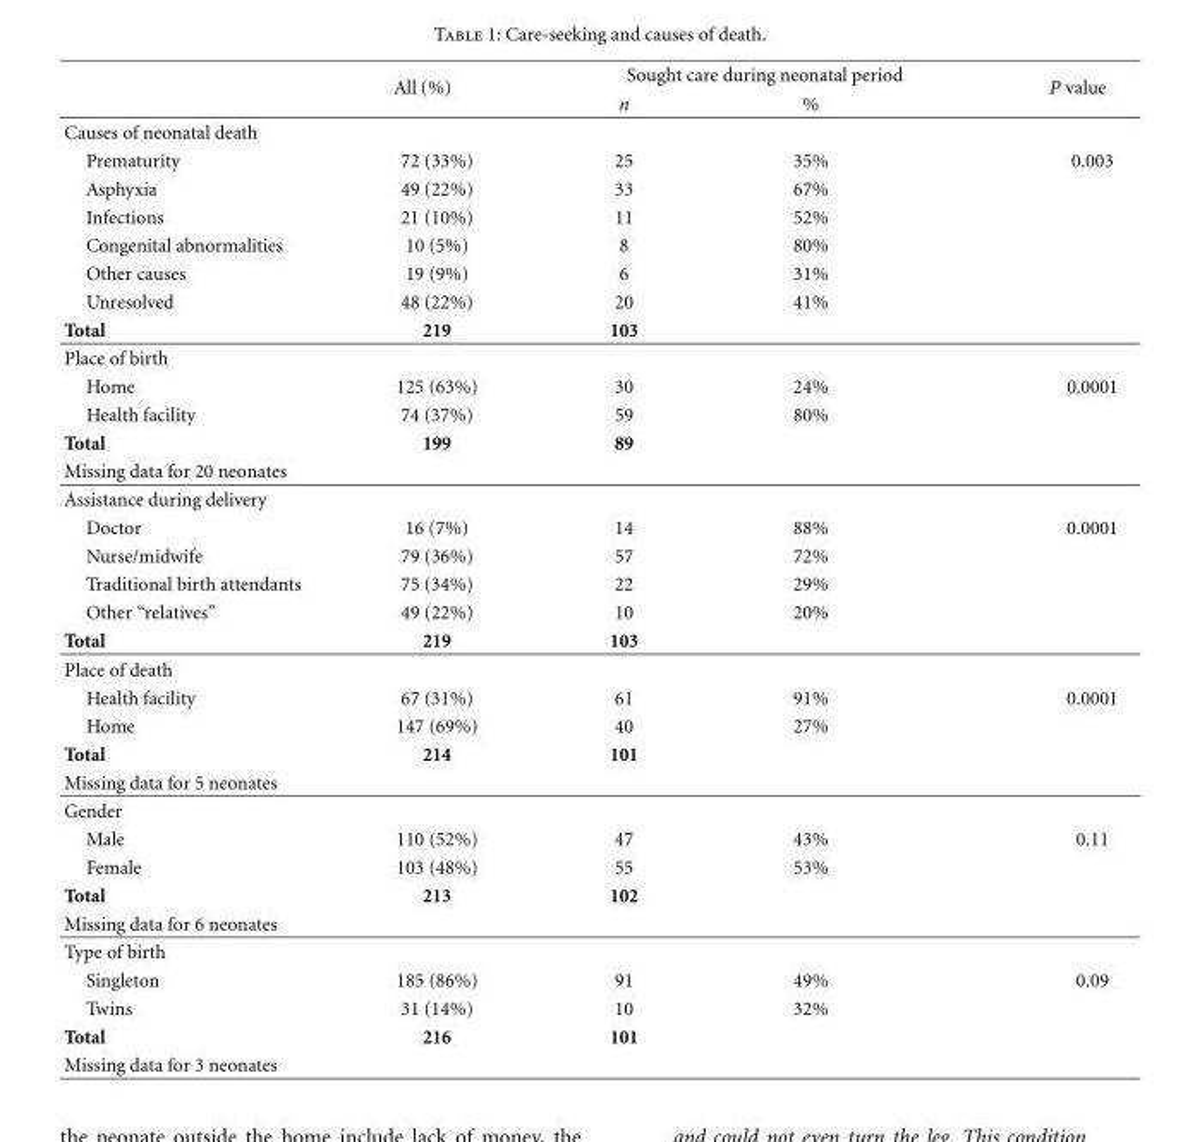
<table><thead><tr><td rowspan="2"></td><td rowspan="2">All (%)</td><td colspan="2">Sought care during neonatal period</td><td rowspan="2">P value</td></tr><tr><td>n</td><td>%</td></tr></thead><tbody><tr><td colspan="5">Causes of neonatal death</td></tr><tr><td>Prematurity</td><td>72 (33%)</td><td>25</td><td>35%</td><td>0.003</td></tr><tr><td>Asphyxia</td><td>49 (22%)</td><td>33</td><td>67%</td><td></td></tr><tr><td>Infections</td><td>21 (10%)</td><td>11</td><td>52%</td><td></td></tr><tr><td>Congenital abnormalities</td><td>10 (5%)</td><td>8</td><td>80%</td><td></td></tr><tr><td>Other causes</td><td>19 (9%)</td><td>6</td><td>31%</td><td></td></tr><tr><td>Unresolved</td><td>48 (22%)</td><td>20</td><td>41%</td><td></td></tr><tr><td>Total</td><td>219</td><td>103</td><td></td><td></td></tr><tr><td colspan="5">Place of birth</td></tr><tr><td>Home</td><td>125 (63%)</td><td>30</td><td>24%</td><td>0.0001</td></tr><tr><td>Health facility</td><td>74 (37%)</td><td>59</td><td>80%</td><td></td></tr><tr><td>Total</td><td>199</td><td>89</td><td></td><td></td></tr><tr><td colspan="5">Missing data for 20 neonates</td></tr><tr><td colspan="5">Assistance during delivery</td></tr><tr><td>Doctor</td><td>16 (7%)</td><td>14</td><td>88%</td><td>0.0001</td></tr><tr><td>Nurse/midwife</td><td>79 (36%)</td><td>57</td><td>72%</td><td></td></tr><tr><td>Traditional birth attendants</td><td>75 (34%)</td><td>22</td><td>29%</td><td></td></tr><tr><td>Other “relatives”</td><td>49 (22%)</td><td>10</td><td>20%</td><td></td></tr><tr><td>Total</td><td>219</td><td>103</td><td></td><td></td></tr><tr><td colspan="5">Place of death</td></tr><tr><td>Health facility</td><td>67 (31%)</td><td>61</td><td>91%</td><td>0.0001</td></tr><tr><td>Home</td><td>147 (69%)</td><td>40</td><td>27%</td><td></td></tr><tr><td>Total</td><td>214</td><td>101</td><td></td><td></td></tr><tr><td colspan="5">Missing data for 5 neonates</td></tr><tr><td colspan="5">Gender</td></tr><tr><td>Male</td><td>110 (52%)</td><td>47</td><td>43%</td><td>0.11</td></tr><tr><td>Female</td><td>103 (48%)</td><td>55</td><td>53%</td><td></td></tr><tr><td>Total</td><td>213</td><td>102</td><td></td><td></td></tr><tr><td colspan="5">Missing data for 6 neonates</td></tr><tr><td colspan="5">Type of birth</td></tr><tr><td>Singleton</td><td>185 (86%)</td><td>91</td><td>49%</td><td>0.09</td></tr><tr><td>Twins</td><td>31 (14%)</td><td>10</td><td>32%</td><td></td></tr><tr><td>Total</td><td>216</td><td>101</td><td></td><td></td></tr><tr><td>Missing data for 3 neonates</td><td></td><td></td><td></td><td></td></tr></tbody></table>